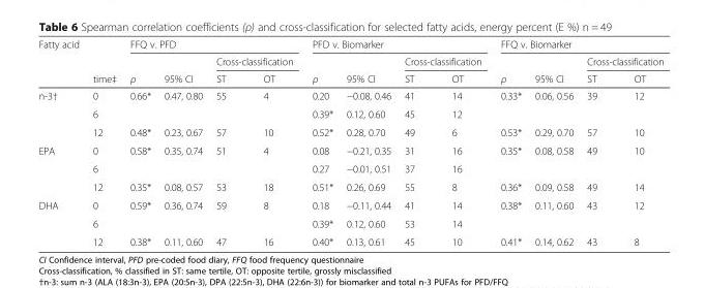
<table><thead><tr><td rowspan="3">Fatty acid</td><td rowspan="3">time‡</td><td colspan="4">FFQ v. PFD</td><td colspan="4">PFD v. Biomarker</td><td colspan="4">FFQ v. Biomarker</td></tr><tr><td rowspan="2">ρ</td><td rowspan="2">95% CI</td><td colspan="2">Cross-classification</td><td rowspan="2">ρ</td><td rowspan="2">95% CI</td><td colspan="2">Cross-classification</td><td rowspan="2">ρ</td><td rowspan="2">95% CI</td><td colspan="2">Cross-classification</td></tr><tr><td>ST</td><td>OT</td><td>ST</td><td>OT</td><td>ST</td><td>OT</td></tr></thead><tbody><tr><td rowspan="3">n-3†</td><td>0</td><td>0.66*</td><td>0.47, 0.80</td><td>55</td><td>4</td><td>0.20</td><td>−0.08, 0.46</td><td>41</td><td>14</td><td>0.33*</td><td>0.06, 0.56</td><td>39</td><td>12</td></tr><tr><td>6</td><td></td><td></td><td></td><td></td><td>0.39*</td><td>0.12, 0.60</td><td>45</td><td>12</td><td></td><td></td><td></td><td></td></tr><tr><td>12</td><td>0.48*</td><td>0.23, 0.67</td><td>57</td><td>10</td><td>0.52*</td><td>0.28, 0.70</td><td>49</td><td>6</td><td>0.53*</td><td>0.29, 0.70</td><td>57</td><td>10</td></tr><tr><td rowspan="3">EPA</td><td>0</td><td>0.58*</td><td>0.35, 0.74</td><td>51</td><td>4</td><td>0.08</td><td>−0.21, 0.35</td><td>31</td><td>16</td><td>0.35*</td><td>0.08, 0.58</td><td>49</td><td>10</td></tr><tr><td>6</td><td></td><td></td><td></td><td></td><td>0.27</td><td>−0.01, 0.51</td><td>37</td><td>16</td><td></td><td></td><td></td><td></td></tr><tr><td>12</td><td>0.35*</td><td>0.08, 0.57</td><td>53</td><td>18</td><td>0.51*</td><td>0.26, 0.69</td><td>55</td><td>8</td><td>0.36*</td><td>0.09, 0.58</td><td>49</td><td>14</td></tr><tr><td rowspan="3">DHA</td><td>0</td><td>0.59*</td><td>0.36, 0.74</td><td>59</td><td>8</td><td>0.18</td><td>−0.11, 0.44</td><td>41</td><td>14</td><td>0.38*</td><td>0.11, 0.60</td><td>43</td><td>12</td></tr><tr><td>6</td><td></td><td></td><td></td><td></td><td>0.39*</td><td>0.12, 0.60</td><td>53</td><td>14</td><td></td><td></td><td></td><td></td></tr><tr><td>12</td><td>0.38*</td><td>0.11, 0.60</td><td>47</td><td>16</td><td>0.40*</td><td>0.13, 0.61</td><td>45</td><td>10</td><td>0.41*</td><td>0.14, 0.62</td><td>43</td><td>8</td></tr></tbody></table>